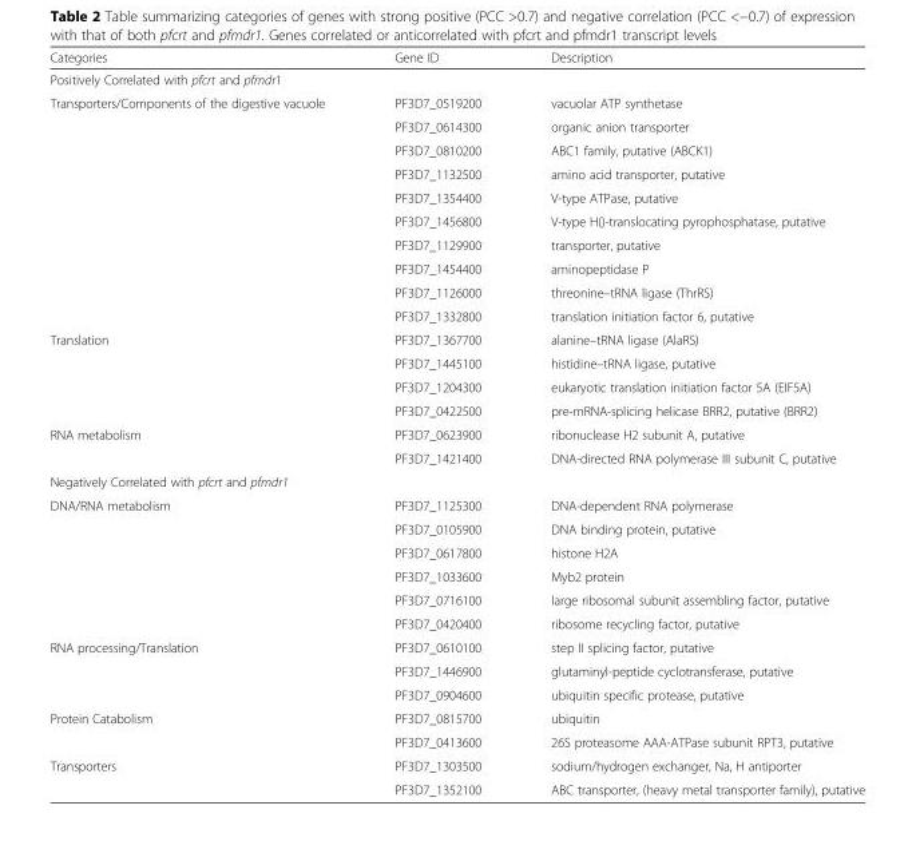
<table><thead><tr><td>Categories</td><td>Gene ID</td><td>Description</td></tr></thead><tbody><tr><td colspan="3">Positively Correlated with pfcrt and pfmdr1</td></tr><tr><td rowspan="10">Transporters/Components of the digestive vacuole</td><td>PF3D7_0519200</td><td>vacuolar ATP synthetase</td></tr><tr><td>PF3D7_0614300</td><td>organic anion transporter</td></tr><tr><td>PF3D7_0810200</td><td>ABC1 family, putative (ABCK1)</td></tr><tr><td>PF3D7_1132500</td><td>amino acid transporter, putative</td></tr><tr><td>PF3D7_1354400</td><td>V-type ATPase, putative</td></tr><tr><td>PF3D7_1456800</td><td>V-type H()-translocating pyrophosphatase, putative</td></tr><tr><td>PF3D7_1129900</td><td>transporter, putative</td></tr><tr><td>PF3D7_1454400</td><td>aminopeptidase P</td></tr><tr><td>PF3D7_1126000</td><td>threonine–tRNA ligase (ThrRS)</td></tr><tr><td>PF3D7_1332800</td><td>translation initiation factor 6, putative</td></tr><tr><td rowspan="4">Translation</td><td>PF3D7_1367700</td><td>alanine–tRNA ligase (AlaRS)</td></tr><tr><td>PF3D7_1445100</td><td>histidine–tRNA ligase, putative</td></tr><tr><td>PF3D7_1204300</td><td>eukaryotic translation initiation factor 5A (EIF5A)</td></tr><tr><td>PF3D7_0422500</td><td>pre-mRNA-splicing helicase BRR2, putative (BRR2)</td></tr><tr><td rowspan="2">RNA metabolism</td><td>PF3D7_0623900</td><td>ribonuclease H2 subunit A, putative</td></tr><tr><td>PF3D7_1421400</td><td>DNA-directed RNA polymerase III subunit C, putative</td></tr><tr><td colspan="3">Negatively Correlated with pfcrt and pfmdr1</td></tr><tr><td rowspan="6">DNA/RNA metabolism</td><td>PF3D7_1125300</td><td>DNA-dependent RNA polymerase</td></tr><tr><td>PF3D7_0105900</td><td>DNA binding protein, putative</td></tr><tr><td>PF3D7_0617800</td><td>histone H2A</td></tr><tr><td>PF3D7_1033600</td><td>Myb2 protein</td></tr><tr><td>PF3D7_0716100</td><td>large ribosomal subunit assembling factor, putative</td></tr><tr><td>PF3D7_0420400</td><td>ribosome recycling factor, putative</td></tr><tr><td rowspan="3">RNA processing/Translation</td><td>PF3D7_0610100</td><td>step II splicing factor, putative</td></tr><tr><td>PF3D7_1446900</td><td>glutaminyl-peptide cyclotransferase, putative</td></tr><tr><td>PF3D7_0904600</td><td>ubiquitin specific protease, putative</td></tr><tr><td rowspan="2">Protein Catabolism</td><td>PF3D7_0815700</td><td>ubiquitin</td></tr><tr><td>PF3D7_0413600</td><td>26S proteasome AAA-ATPase subunit RPT3, putative</td></tr><tr><td rowspan="2">Transporters</td><td>PF3D7_1303500</td><td>sodium/hydrogen exchanger, Na, H antiporter</td></tr><tr><td>PF3D7_1352100</td><td>ABC transporter, (heavy metal transporter family), putative</td></tr></tbody></table>